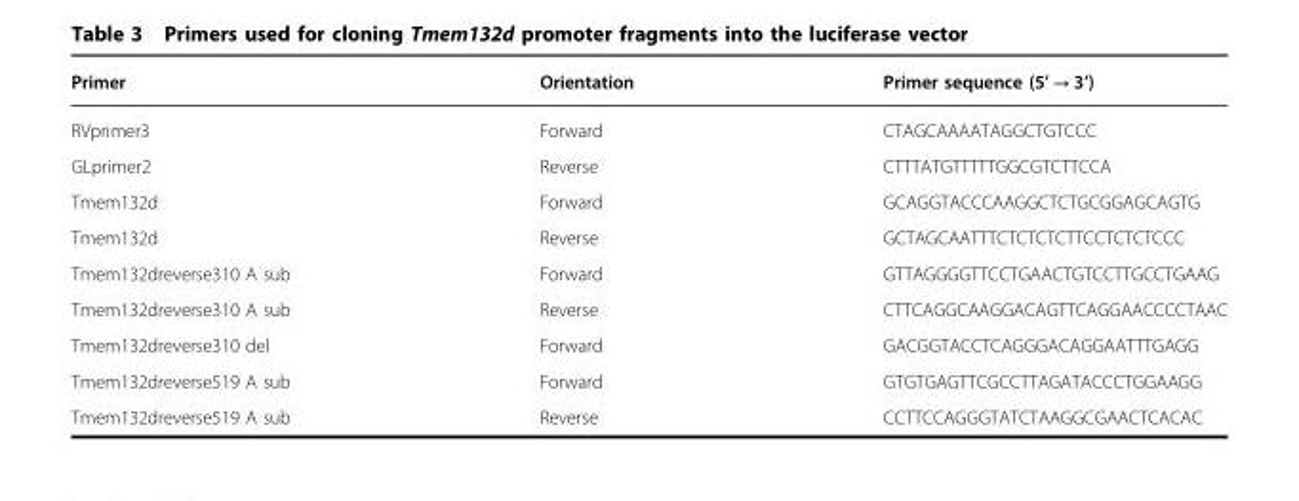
<table><thead><tr><td>Primer</td><td>Orientation</td><td>Primer sequence (5’ → 3’)</td></tr></thead><tbody><tr><td>RVprimer3</td><td>Forward</td><td>CTAGCAAAATAGGCTGTCCC</td></tr><tr><td>GLprimer2</td><td>Reverse</td><td>CTTTATGTTTTTGGCGTCTTCCA</td></tr><tr><td>Tmem132d</td><td>Forward</td><td>GCAGGTACCCAAGGCTCTGCGGAGCAGTG</td></tr><tr><td>Tmem132d</td><td>Reverse</td><td>GCTAGCAATTTCTCTCTCTTCCTCTCTCCC</td></tr><tr><td>Tmem132dreverse310 A sub</td><td>Forward</td><td>GTTAGGGGTTCCTGAACTGTCCTTGCCTGAAG</td></tr><tr><td>Tmem132dreverse310 A sub</td><td>Reverse</td><td>CTTCAGGCAAGGACAGTTCAGGAACCCCTAAC</td></tr><tr><td>Tmem132dreverse310 del</td><td>Forward</td><td>GACGGTACCTCAGGGACAGGAATTTGAGG</td></tr><tr><td>Tmem132dreverse519 A sub</td><td>Forward</td><td>GTGTGAGTTCGCCTTAGATACCCTGGAAGG</td></tr><tr><td>Tmem132dreverse519 A sub</td><td>Reverse</td><td>CCTTCCAGGGTATCTAAGGCGAACTCACAC</td></tr></tbody></table>